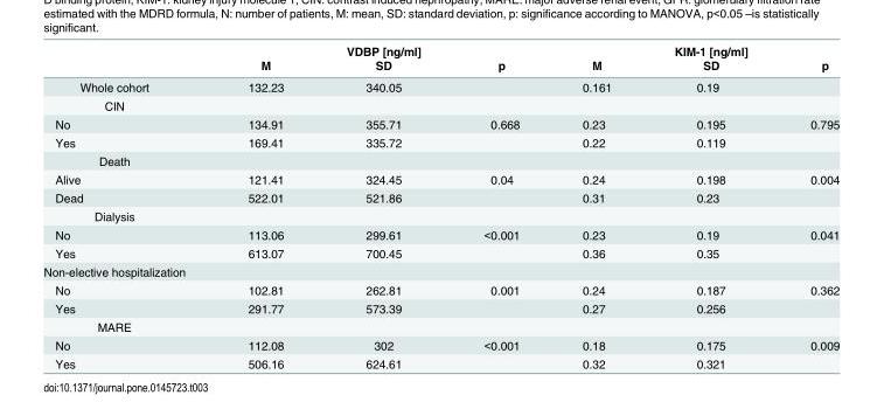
<table><thead><tr><td rowspan="2"></td><td rowspan="2">M</td><td rowspan="2">VDBP [ng/ml] SD</td><td rowspan="2">p</td><td rowspan="2">M</td><td rowspan="2">KIM-1 [ng/ml] SD</td><td rowspan="2">p</td></tr><tr></tr></thead><tbody><tr><td>Whole cohort</td><td>132.23</td><td>340.05</td><td></td><td>0.161</td><td>0.19</td><td></td></tr><tr><td colspan="7">CIN</td></tr><tr><td>No</td><td>134.91</td><td>355.71</td><td>0.668</td><td>0.23</td><td>0.195</td><td>0.795</td></tr><tr><td>Yes</td><td>169.41</td><td>335.72</td><td></td><td>0.22</td><td>0.119</td><td></td></tr><tr><td colspan="7">Death</td></tr><tr><td>Alive</td><td>121.41</td><td>324.45</td><td>0.04</td><td>0.24</td><td>0.198</td><td>0.004</td></tr><tr><td>Dead</td><td>522.01</td><td>521.86</td><td></td><td>0.31</td><td>0.23</td><td></td></tr><tr><td colspan="7">Dialysis</td></tr><tr><td>No</td><td>113.06</td><td>299.61</td><td>&lt;0.001</td><td>0.23</td><td>0.19</td><td>0.041</td></tr><tr><td>Yes</td><td>613.07</td><td>700.45</td><td></td><td>0.36</td><td>0.35</td><td></td></tr><tr><td colspan="7">Non-elective hospitalization</td></tr><tr><td>No</td><td>102.81</td><td>262.81</td><td>0.001</td><td>0.24</td><td>0.187</td><td>0.362</td></tr><tr><td>Yes</td><td>291.77</td><td>573.39</td><td></td><td>0.27</td><td>0.256</td><td></td></tr><tr><td colspan="7">MARE</td></tr><tr><td>No</td><td>112.08</td><td>302</td><td>&lt;0.001</td><td>0.18</td><td>0.175</td><td>0.009</td></tr><tr><td>Yes</td><td>506.16</td><td>624.61</td><td></td><td>0.32</td><td>0.321</td><td></td></tr></tbody></table>